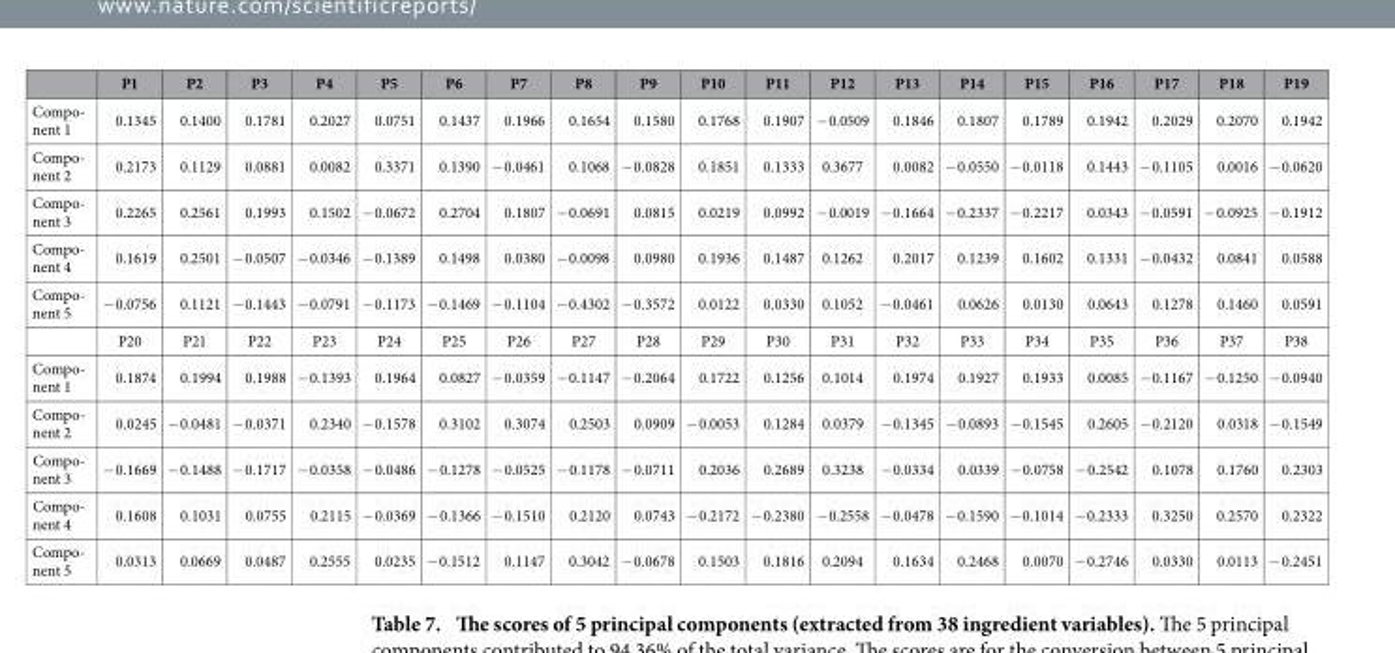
<table><thead><tr><td></td><td>P1</td><td>P2</td><td>P3</td><td>P4</td><td>P5</td><td>P6</td><td>P7</td><td>P8</td><td>P9</td><td>P10</td><td>P11</td><td>P12</td><td>P13</td><td>P14</td><td>P15</td><td>P16</td><td>P17</td><td>P18</td><td>P19</td></tr></thead><tbody><tr><td>Compo- nent 1</td><td>0.1345</td><td>0.1400</td><td>0.1781</td><td>0.2027</td><td>0.0751</td><td>0.1437</td><td>0.1966</td><td>0.1654</td><td>0.1580</td><td>0.1768</td><td>0.1907</td><td>− 0.0509</td><td>0.1846</td><td>0.1807</td><td>0.1789</td><td>0.1942</td><td>0.2029</td><td>0.2070</td><td>0.1942</td></tr><tr><td>Compo- nent 2</td><td>0.2173</td><td>0.1129</td><td>0.0881</td><td>0.0082</td><td>0.3371</td><td>0.1390</td><td>− 0.0461</td><td>0.1068</td><td>− 0.0828</td><td>0.1851</td><td>0.1333</td><td>0.3677</td><td>0.0082</td><td>− 0.0550</td><td>− 0.0118</td><td>0.1443</td><td>− 0.1105</td><td>0.0016</td><td>− 0.0620</td></tr><tr><td>Compo- nent 3</td><td>0.2265</td><td>0.2561</td><td>0.1993</td><td>0.1502</td><td>− 0.0672</td><td>0.2704</td><td>0.1807</td><td>− 0.0691</td><td>0.0815</td><td>0.0219</td><td>0.0992</td><td>− 0.0019</td><td>− 0.1664</td><td>− 0.2337</td><td>− 0.2217</td><td>0.0343</td><td>− 0.0591</td><td>− 0.0925</td><td>− 0.1912</td></tr><tr><td>Compo- nent 4</td><td>0.1619</td><td>0.2501</td><td>− 0.0507</td><td>− 0.0346</td><td>− 0.1389</td><td>0.1498</td><td>0.0380</td><td>− 0.0098</td><td>0.0980</td><td>0.1936</td><td>0.1487</td><td>0.1262</td><td>0.2017</td><td>0.1239</td><td>0.1602</td><td>0.1331</td><td>− 0.0432</td><td>0.0841</td><td>0.0588</td></tr><tr><td rowspan="2">Compo- nent 5</td><td>− 0.0756</td><td>0.1121</td><td>− 0.1443</td><td>− 0.0791</td><td>− 0.1173</td><td>− 0.1469</td><td>− 0.1104</td><td>− 0.4302</td><td>− 0.3572</td><td>0.0122</td><td>0.0330</td><td>0.1052</td><td>− 0.0461</td><td>0.0626</td><td>0.0130</td><td>0.0643</td><td>0.1278</td><td>0.1460</td><td>0.0591</td></tr><tr><td>P20</td><td>P21</td><td>P22</td><td>P23</td><td>P24</td><td>P25</td><td>P26</td><td>P27</td><td>P28</td><td>P29</td><td>P30</td><td>P31</td><td>P32</td><td>P33</td><td>P34</td><td>P35</td><td>P36</td><td>P37</td><td>P38</td></tr><tr><td>Compo- nent 1</td><td>0.1874</td><td>0.1994</td><td>0.1988</td><td>− 0.1393</td><td>0.1964</td><td>0.0827</td><td>− 0.0359</td><td>− 0.1147</td><td>− 0.2064</td><td>0.1722</td><td>0.1256</td><td>0.1014</td><td>0.1974</td><td>0.1927</td><td>0.1933</td><td>0.0085</td><td>− 0.1167</td><td>− 0.1250</td><td>− 0.0940</td></tr><tr><td>Compo- nent 2</td><td>0.0245</td><td>− 0.0481</td><td>− 0.0371</td><td>0.2340</td><td>− 0.1578</td><td>0.3102</td><td>0.3074</td><td>0.2503</td><td>0.0909</td><td>− 0.0053</td><td>0.1284</td><td>0.0379</td><td>− 0.1345</td><td>− 0.0893</td><td>− 0.1545</td><td>0.2605</td><td>− 0.2120</td><td>0.0318</td><td>− 0.1549</td></tr><tr><td>Compo- nent 3</td><td>− 0.1669</td><td>− 0.1488</td><td>− 0.1717</td><td>− 0.0358</td><td>− 0.0486</td><td>− 0.1278</td><td>− 0.0525</td><td>− 0.1178</td><td>− 0.0711</td><td>0.2036</td><td>0.2689</td><td>0.3238</td><td>− 0.0334</td><td>0.0339</td><td>− 0.0758</td><td>− 0.2542</td><td>0.1078</td><td>0.1760</td><td>0.2303</td></tr><tr><td>Compo- nent 4</td><td>0.1608</td><td>0.1031</td><td>0.0755</td><td>0.2115</td><td>− 0.0369</td><td>− 0.1366</td><td>− 0.1510</td><td>0.2120</td><td>0.0743</td><td>− 0.2172</td><td>− 0.2380</td><td>− 0.2558</td><td>− 0.0478</td><td>− 0.1590</td><td>− 0.1014</td><td>− 0.2333</td><td>0.3250</td><td>0.2570</td><td>0.2322</td></tr><tr><td>Compo- nent 5</td><td>0.0313</td><td>0.0669</td><td>0.0487</td><td>0.2555</td><td>0.0235</td><td>− 0.1512</td><td>0.1147</td><td>0.3042</td><td>− 0.0678</td><td>0.1503</td><td>0.1816</td><td>0.2094</td><td>0.1634</td><td>0.2468</td><td>0.0070</td><td>− 0.2746</td><td>0.0330</td><td>0.0113</td><td>− 0.2451</td></tr></tbody></table>